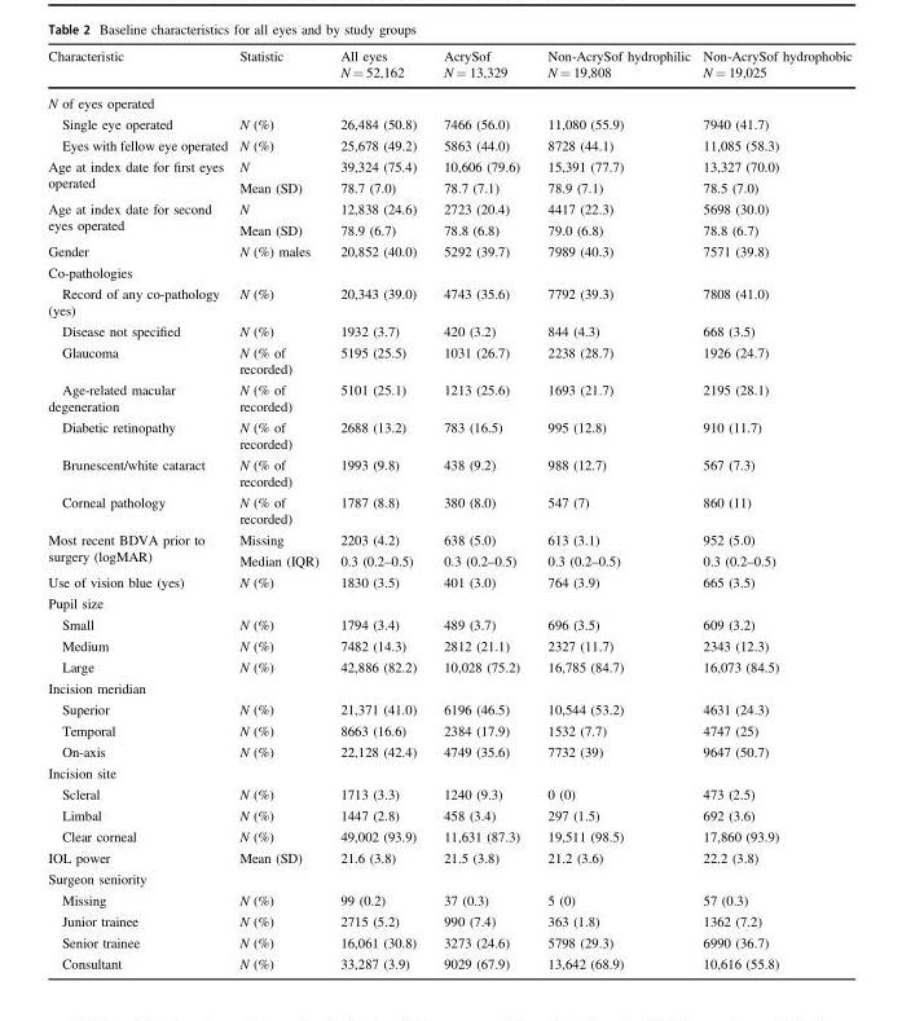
<table><thead><tr><td>Characteristic</td><td>Statistic</td><td>All eyes N = 52,162</td><td>AcrySof N = 13,329</td><td>Non-AcrySof hydrophilic N = 19,808</td><td>Non-AcrySof hydrophobic N = 19,025</td></tr></thead><tbody><tr><td colspan="6">N of eyes operated</td></tr><tr><td>Single eye operated</td><td>N (%)</td><td>26,484 (50.8)</td><td>7466 (56.0)</td><td>11,080 (55.9)</td><td>7940 (41.7)</td></tr><tr><td>Eyes with fellow eye operated</td><td>N (%)</td><td>25,678 (49.2)</td><td>5863 (44.0)</td><td>8728 (44.1)</td><td>11,085 (58.3)</td></tr><tr><td rowspan="2">Age at index date for first eyes operated</td><td>N</td><td>39,324 (75.4)</td><td>10,606 (79.6)</td><td>15,391 (77.7)</td><td>13,327 (70.0)</td></tr><tr><td>Mean (SD)</td><td>78.7 (7.0)</td><td>78.7 (7.1)</td><td>78.9 (7.1)</td><td>78.5 (7.0)</td></tr><tr><td rowspan="2">Age at index date for second eyes operated</td><td>N</td><td>12,838 (24.6)</td><td>2723 (20.4)</td><td>4417 (22.3)</td><td>5698 (30.0)</td></tr><tr><td>Mean (SD)</td><td>78.9 (6.7)</td><td>78.8 (6.8)</td><td>79.0 (6.8)</td><td>78.8 (6.7)</td></tr><tr><td>Gender</td><td>N (%) males</td><td>20,852 (40.0)</td><td>5292 (39.7)</td><td>7989 (40.3)</td><td>7571 (39.8)</td></tr><tr><td colspan="6">Co-pathologies</td></tr><tr><td>Record of any co-pathology (yes)</td><td>N (%)</td><td>20,343 (39.0)</td><td>4743 (35.6)</td><td>7792 (39.3)</td><td>7808 (41.0)</td></tr><tr><td>Disease not specified</td><td>N (%)</td><td>1932 (3.7)</td><td>420 (3.2)</td><td>844 (4.3)</td><td>668 (3.5)</td></tr><tr><td>Glaucoma</td><td>N (% of recorded)</td><td>5195 (25.5)</td><td>1031 (26.7)</td><td>2238 (28.7)</td><td>1926 (24.7)</td></tr><tr><td>Age-related macular degeneration</td><td>N (% of recorded)</td><td>5101 (25.1)</td><td>1213 (25.6)</td><td>1693 (21.7)</td><td>2195 (28.1)</td></tr><tr><td>Diabetic retinopathy</td><td>N (% of recorded)</td><td>2688 (13.2)</td><td>783 (16.5)</td><td>995 (12.8)</td><td>910 (11.7)</td></tr><tr><td>Brunescent/white cataract</td><td>N (% of recorded)</td><td>1993 (9.8)</td><td>438 (9.2)</td><td>988 (12.7)</td><td>567 (7.3)</td></tr><tr><td>Corneal pathology</td><td>N (% of recorded)</td><td>1787 (8.8)</td><td>380 (8.0)</td><td>547 (7)</td><td>860 (11)</td></tr><tr><td rowspan="2">Most recent BDVA prior to surgery (logMAR)</td><td>Missing</td><td>2203 (4.2)</td><td>638 (5.0)</td><td>613 (3.1)</td><td>952 (5.0)</td></tr><tr><td>Median (IQR)</td><td>0.3 (0.2–0.5)</td><td>0.3 (0.2–0.5)</td><td>0.3 (0.2–0.5)</td><td>0.3 (0.2–0.5)</td></tr><tr><td>Use of vision blue (yes)</td><td>N (%)</td><td>1830 (3.5)</td><td>401 (3.0)</td><td>764 (3.9)</td><td>665 (3.5)</td></tr><tr><td colspan="6">Pupil size</td></tr><tr><td>Small</td><td>N (%)</td><td>1794 (3.4)</td><td>489 (3.7)</td><td>696 (3.5)</td><td>609 (3.2)</td></tr><tr><td>Medium</td><td>N (%)</td><td>7482 (14.3)</td><td>2812 (21.1)</td><td>2327 (11.7)</td><td>2343 (12.3)</td></tr><tr><td>Large</td><td>N (%)</td><td>42,886 (82.2)</td><td>10,028 (75.2)</td><td>16,785 (84.7)</td><td>16,073 (84.5)</td></tr><tr><td colspan="6">Incision meridian</td></tr><tr><td>Superior</td><td>N (%)</td><td>21,371 (41.0)</td><td>6196 (46.5)</td><td>10,544 (53.2)</td><td>4631 (24.3)</td></tr><tr><td>Temporal</td><td>N (%)</td><td>8663 (16.6)</td><td>2384 (17.9)</td><td>1532 (7.7)</td><td>4747 (25)</td></tr><tr><td>On-axis</td><td>N (%)</td><td>22,128 (42.4)</td><td>4749 (35.6)</td><td>7732 (39)</td><td>9647 (50.7)</td></tr><tr><td colspan="6">Incision site</td></tr><tr><td>Scleral</td><td>N (%)</td><td>1713 (3.3)</td><td>1240 (9.3)</td><td>0 (0)</td><td>473 (2.5)</td></tr><tr><td>Limbal</td><td>N (%)</td><td>1447 (2.8)</td><td>458 (3.4)</td><td>297 (1.5)</td><td>692 (3.6)</td></tr><tr><td>Clear corneal</td><td>N (%)</td><td>49,002 (93.9)</td><td>11,631 (87.3)</td><td>19,511 (98.5)</td><td>17,860 (93.9)</td></tr><tr><td>IOL power</td><td>Mean (SD)</td><td>21.6 (3.8)</td><td>21.5 (3.8)</td><td>21.2 (3.6)</td><td>22.2 (3.8)</td></tr><tr><td colspan="6">Surgeon seniority</td></tr><tr><td>Missing</td><td>N (%)</td><td>99 (0.2)</td><td>37 (0.3)</td><td>5 (0)</td><td>57 (0.3)</td></tr><tr><td>Junior trainee</td><td>N (%)</td><td>2715 (5.2)</td><td>990 (7.4)</td><td>363 (1.8)</td><td>1362 (7.2)</td></tr><tr><td>Senior trainee</td><td>N (%)</td><td>16,061 (30.8)</td><td>3273 (24.6)</td><td>5798 (29.3)</td><td>6990 (36.7)</td></tr><tr><td>Consultant</td><td>N (%)</td><td>33,287 (3.9)</td><td>9029 (67.9)</td><td>13,642 (68.9)</td><td>10,616 (55.8)</td></tr></tbody></table>